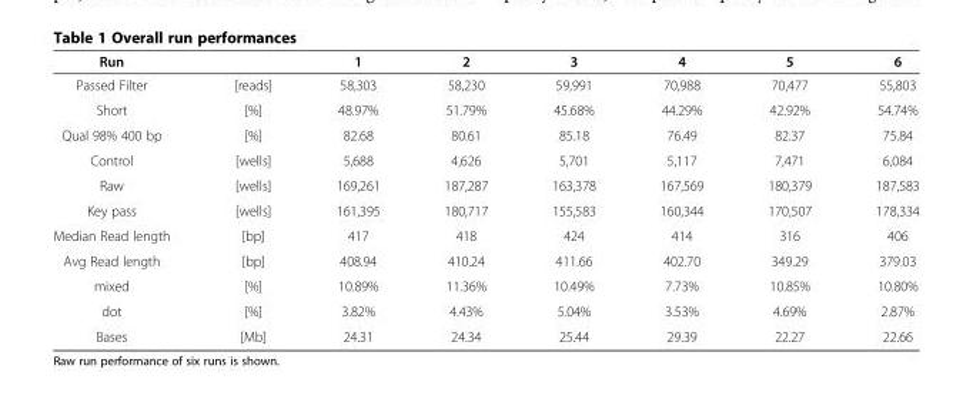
<table><thead><tr><td>Run</td><td></td><td>1</td><td>2</td><td>3</td><td>4</td><td>5</td><td>6</td></tr></thead><tbody><tr><td>Passed Filter</td><td>[reads]</td><td>58,303</td><td>58,230</td><td>59,991</td><td>70,988</td><td>70,477</td><td>55,803</td></tr><tr><td>Short</td><td>[%]</td><td>48.97%</td><td>51.79%</td><td>45.68%</td><td>44.29%</td><td>42.92%</td><td>54.74%</td></tr><tr><td>Qual 98% 400 bp</td><td>[%]</td><td>82.68</td><td>80.61</td><td>85.18</td><td>76.49</td><td>82.37</td><td>75.84</td></tr><tr><td>Control</td><td>[wells]</td><td>5,688</td><td>4,626</td><td>5,701</td><td>5,117</td><td>7,471</td><td>6,084</td></tr><tr><td>Raw</td><td>[wells]</td><td>169,261</td><td>187,287</td><td>163,378</td><td>167,569</td><td>180,379</td><td>187,583</td></tr><tr><td>Key pass</td><td>[wells]</td><td>161,395</td><td>180,717</td><td>155,583</td><td>160,344</td><td>170,507</td><td>178,334</td></tr><tr><td>Median Read length</td><td>[bp]</td><td>417</td><td>418</td><td>424</td><td>414</td><td>316</td><td>406</td></tr><tr><td>Avg Read length</td><td>[bp]</td><td>408.94</td><td>410.24</td><td>411.66</td><td>402.70</td><td>349.29</td><td>379.03</td></tr><tr><td>mixed</td><td>[%]</td><td>10.89%</td><td>11.36%</td><td>10.49%</td><td>7.73%</td><td>10.85%</td><td>10.80%</td></tr><tr><td>dot</td><td>[%]</td><td>3.82%</td><td>4.43%</td><td>5.04%</td><td>3.53%</td><td>4.69%</td><td>2.87%</td></tr><tr><td>Bases</td><td>[Mb]</td><td>24.31</td><td>24.34</td><td>25.44</td><td>29.39</td><td>22.27</td><td>22.66</td></tr></tbody></table>